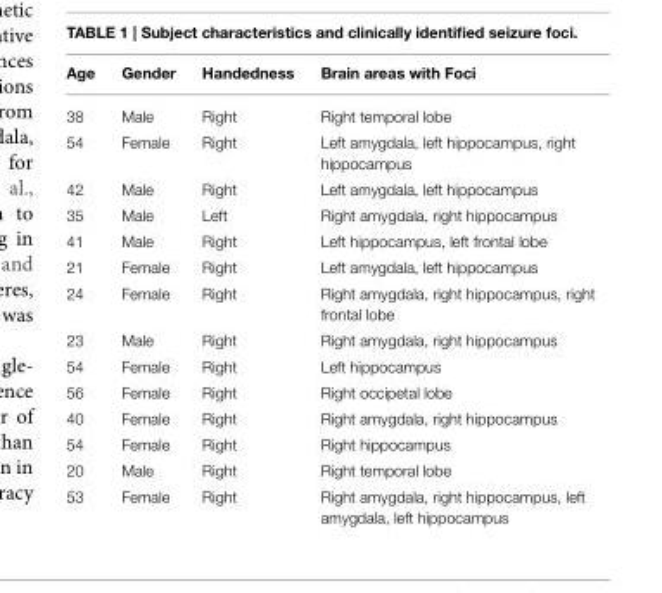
<table><thead><tr><td>Age</td><td>Gender</td><td>Handedness</td><td>Brain areas with Foci</td></tr></thead><tbody><tr><td>38</td><td>Male</td><td>Right</td><td>Right temporal lobe</td></tr><tr><td>54</td><td>Female</td><td>Right</td><td>Left amygdala, left hippocampus, right hippocampus</td></tr><tr><td>42</td><td>Male</td><td>Right</td><td>Left amygdala, left hippocampus</td></tr><tr><td>35</td><td>Male</td><td>Left</td><td>Right amygdala, right hippocampus</td></tr><tr><td>41</td><td>Male</td><td>Right</td><td>Left hippocampus, left frontal lobe</td></tr><tr><td>21</td><td>Female</td><td>Right</td><td>Left amygdala, left hippocampus</td></tr><tr><td>24</td><td>Female</td><td>Right</td><td>Right amygdala, right hippocampus, right frontal lobe</td></tr><tr><td>23</td><td>Male</td><td>Right</td><td>Right amygdala, right hippocampus</td></tr><tr><td>54</td><td>Female</td><td>Right</td><td>Left hippocampus</td></tr><tr><td>56</td><td>Female</td><td>Right</td><td>Right occipetal lobe</td></tr><tr><td>40</td><td>Female</td><td>Right</td><td>Right amygdala, right hippocampus</td></tr><tr><td>54</td><td>Female</td><td>Right</td><td>Right hippocampus</td></tr><tr><td>20</td><td>Male</td><td>Right</td><td>Right temporal lobe</td></tr><tr><td>53</td><td>Female</td><td>Right</td><td>Right amygdala, right hippocampus, left amygdala, left hippocampus</td></tr></tbody></table>